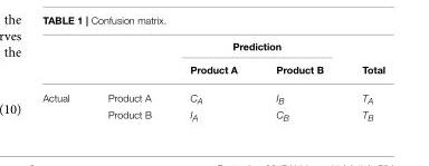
<table><thead><tr><td rowspan="2"></td><td rowspan="2"></td><td colspan="3">Prediction</td></tr><tr><td>Product A</td><td>Product B</td><td>Total</td></tr></thead><tbody><tr><td rowspan="2">Actual</td><td>Product A</td><td>C<sub>A</sub></td><td>I<sub>B</sub></td><td>T<sub>A</sub></td></tr><tr><td>Product B</td><td>I<sub>A</sub></td><td>C<sub>B</sub></td><td>T<sub>B</sub></td></tr></tbody></table>